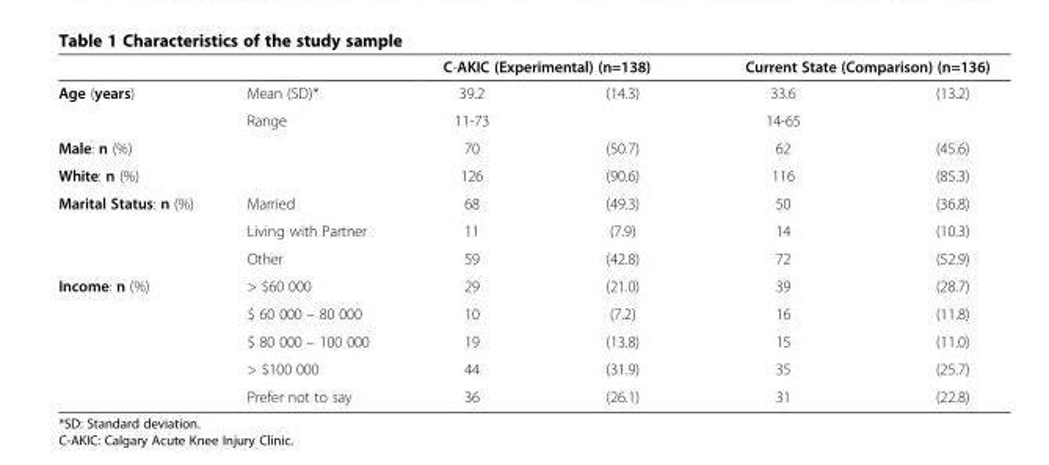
<table><thead><tr><td rowspan="2">Age (years)</td><td rowspan="2">Mean (SD)*</td><td colspan="2">C-AKIC (Experimental) (n=138)</td><td colspan="2">Current State (Comparison) (n=136)</td></tr><tr><td>39.2</td><td>(14.3)</td><td>33.6</td><td>(13.2)</td></tr></thead><tbody><tr><td></td><td>Range</td><td>11-73</td><td></td><td>14-65</td><td></td></tr><tr><td>Male: n (%)</td><td></td><td>70</td><td>(50.7)</td><td>62</td><td>(45.6)</td></tr><tr><td>White: n (%)</td><td></td><td>126</td><td>(90.6)</td><td>116</td><td>(85.3)</td></tr><tr><td rowspan="3">Marital Status: n (%)</td><td>Married</td><td>68</td><td>(49.3)</td><td>50</td><td>(36.8)</td></tr><tr><td>Living with Partner</td><td>11</td><td>(7.9)</td><td>14</td><td>(10.3)</td></tr><tr><td>Other</td><td>59</td><td>(42.8)</td><td>72</td><td>(52.9)</td></tr><tr><td rowspan="5">Income: n (%)</td><td>&gt; $60 000</td><td>29</td><td>(21.0)</td><td>39</td><td>(28.7)</td></tr><tr><td>$ 60 000 – 80 000</td><td>10</td><td>(7.2)</td><td>16</td><td>(11.8)</td></tr><tr><td>$ 80 000 – 100 000</td><td>19</td><td>(13.8)</td><td>15</td><td>(11.0)</td></tr><tr><td>&gt; $100 000</td><td>44</td><td>(31.9)</td><td>35</td><td>(25.7)</td></tr><tr><td>Prefer not to say</td><td>36</td><td>(26.1)</td><td>31</td><td>(22.8)</td></tr></tbody></table>